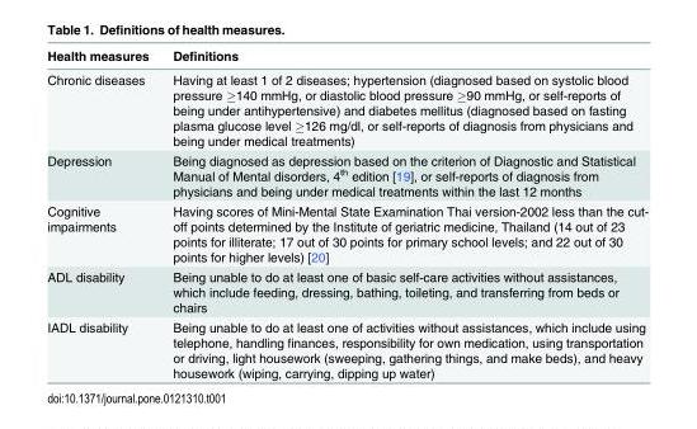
<table><thead><tr><td>Health measures</td><td>Definitions</td></tr></thead><tbody><tr><td>Chronic diseases</td><td>Having at least 1 of 2 diseases; hypertension (diagnosed based on systolic blood pressure ≥140 mmHg, or diastolic blood pressure ≥90 mmHg, or self-reports of being under antihypertensive) and diabetes mellitus (diagnosed based on fasting plasma glucose level ≥126 mg/dl, or self-reports of diagnosis from physicians and being under medical treatments)</td></tr><tr><td>Depression</td><td>Being diagnosed as depression based on the criterion of Diagnostic and Statistical Manual of Mental disorders, 4<sup>th</sup> edition [19], or self-reports of diagnosis from physicians and being under medical treatments within the last 12 months</td></tr><tr><td>Cognitive impairments</td><td>Having scores of Mini-Mental State Examination Thai version-2002 less than the cut- off points determined by the Institute of geriatric medicine, Thailand (14 out of 23 points for illiterate; 17 out of 30 points for primary school levels; and 22 out of 30 points for higher levels) [20]</td></tr><tr><td>ADL disability</td><td>Being unable to do at least one of basic self-care activities without assistances, which include feeding, dressing, bathing, toileting, and transferring from beds or chairs</td></tr><tr><td>IADL disability</td><td>Being unable to do at least one of activities without assistances, which include using telephone, handling finances, responsibility for own medication, using transportation or driving, light housework (sweeping, gathering things, and make beds), and heavy housework (wiping, carrying, dipping up water)</td></tr></tbody></table>